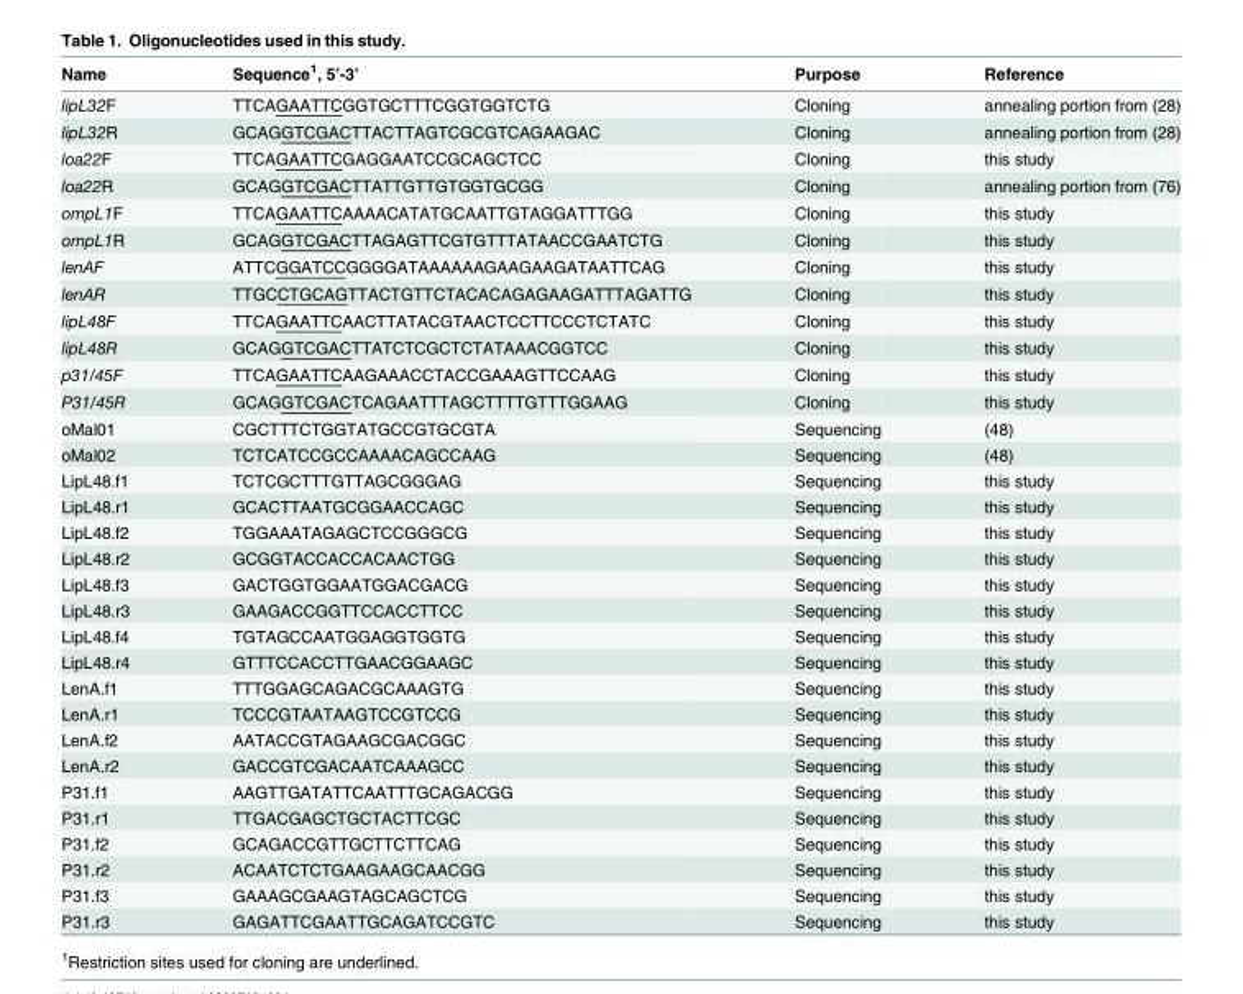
<table><thead><tr><td>Name</td><td>Sequence<sup>1</sup>, 5’-3’</td><td>Purpose</td><td>Reference</td></tr></thead><tbody><tr><td>lipL32F</td><td>TTCAGAATTCGGTGCTTTCGGTGGTCTG</td><td>Cloning</td><td>annealing portion from (28)</td></tr><tr><td>lipL32R</td><td>GCAGGTCGACTTACTTAGTCGCGTCAGAAGAC</td><td>Cloning</td><td>annealing portion from (28)</td></tr><tr><td>loa22F</td><td>TTCAGAATTCGAGGAATCCGCAGCTCC</td><td>Cloning</td><td>this study</td></tr><tr><td>loa22R</td><td>GCAGGTCGACTTATTGTTGTGGTGCGG</td><td>Cloning</td><td>annealing portion from (76)</td></tr><tr><td>ompL1F</td><td>TTCAGAATTCAAAACATATGCAATTGTAGGATTTGG</td><td>Cloning</td><td>this study</td></tr><tr><td>ompL1R</td><td>GCAGGTCGACTTAGAGTTCGTGTTTATAACCGAATCTG</td><td>Cloning</td><td>this study</td></tr><tr><td>lenAF</td><td>ATTCGGATCCGGGGATAAAAAAGAAGAAGATAATTCAG</td><td>Cloning</td><td>this study</td></tr><tr><td>lenAR</td><td>TTGCCTGCAGTTACTGTTCTACACAGAGAAGATTTAGATTG</td><td>Cloning</td><td>this study</td></tr><tr><td>lipL48F</td><td>TTCAGAATTCAACTTATACGTAACTCCTTCCCTCTATC</td><td>Cloning</td><td>this study</td></tr><tr><td>lipL48R</td><td>GCAGGTCGACTTATCTCGCTCTATAAACGGTCC</td><td>Cloning</td><td>this study</td></tr><tr><td>p31/45F</td><td>TTCAGAATTCAAGAAACCTACCGAAAGTTCCAAG</td><td>Cloning</td><td>this study</td></tr><tr><td>P31/45R</td><td>GCAGGTCGACTCAGAATTTAGCTTTTGTTTGGAAG</td><td>Cloning</td><td>this study</td></tr><tr><td>oMal01</td><td>CGCTTTCTGGTATGCCGTGCGTA</td><td>Sequencing</td><td>(48)</td></tr><tr><td>oMal02</td><td>TCTCATCCGCCAAAACAGCCAAG</td><td>Sequencing</td><td>(48)</td></tr><tr><td>LipL48.f1</td><td>TCTCGCTTTGTTAGCGGGAG</td><td>Sequencing</td><td>this study</td></tr><tr><td>LipL48.r1</td><td>GCACTTAATGCGGAACCAGC</td><td>Sequencing</td><td>this study</td></tr><tr><td>LipL48.f2</td><td>TGGAAATAGAGCTCCGGGCG</td><td>Sequencing</td><td>this study</td></tr><tr><td>LipL48.r2</td><td>GCGGTACCACCACAACTGG</td><td>Sequencing</td><td>this study</td></tr><tr><td>LipL48.f3</td><td>GACTGGTGGAATGGACGACG</td><td>Sequencing</td><td>this study</td></tr><tr><td>LipL48.r3</td><td>GAAGACCGGTTCCACCTTCC</td><td>Sequencing</td><td>this study</td></tr><tr><td>LipL48.f4</td><td>TGTAGCCAATGGAGGTGGTG</td><td>Sequencing</td><td>this study</td></tr><tr><td>LipL48.r4</td><td>GTTTCCACCTTGAACGGAAGC</td><td>Sequencing</td><td>this study</td></tr><tr><td>LenA.f1</td><td>TTTGGAGCAGACGCAAAGTG</td><td>Sequencing</td><td>this study</td></tr><tr><td>LenA.r1</td><td>TCCCGTAATAAGTCCGTCCG</td><td>Sequencing</td><td>this study</td></tr><tr><td>LenA.f2</td><td>AATACCGTAGAAGCGACGGC</td><td>Sequencing</td><td>this study</td></tr><tr><td>LenA.r2</td><td>GACCGTCGACAATCAAAGCC</td><td>Sequencing</td><td>this study</td></tr><tr><td>P31.f1</td><td>AAGTTGATATTCAATTTGCAGACGG</td><td>Sequencing</td><td>this study</td></tr><tr><td>P31.r1</td><td>TTGACGAGCTGCTACTTCGC</td><td>Sequencing</td><td>this study</td></tr><tr><td>P31.f2</td><td>GCAGACCGTTGCTTCTTCAG</td><td>Sequencing</td><td>this study</td></tr><tr><td>P31.r2</td><td>ACAATCTCTGAAGAAGCAACGG</td><td>Sequencing</td><td>this study</td></tr><tr><td>P31.f3</td><td>GAAAGCGAAGTAGCAGCTCG</td><td>Sequencing</td><td>this study</td></tr><tr><td>P31.r3</td><td>GAGATTCGAATTGCAGATCCGTC</td><td>Sequencing</td><td>this study</td></tr></tbody></table>